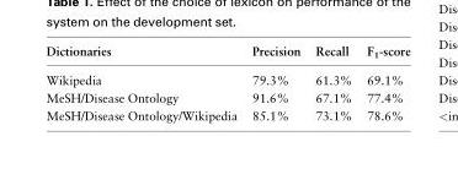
<table><thead><tr><td>Dictionaries</td><td>Precision</td><td>Recall</td><td>F<sub>1</sub>-score</td></tr></thead><tbody><tr><td>Wikipedia</td><td>79.3%</td><td>61.3%</td><td>69.1%</td></tr><tr><td>MeSH/Disease Ontology</td><td>91.6%</td><td>67.1%</td><td>77.4%</td></tr><tr><td>MeSH/Disease Ontology/Wikipedia</td><td>85.1%</td><td>73.1%</td><td>78.6%</td></tr></tbody></table>